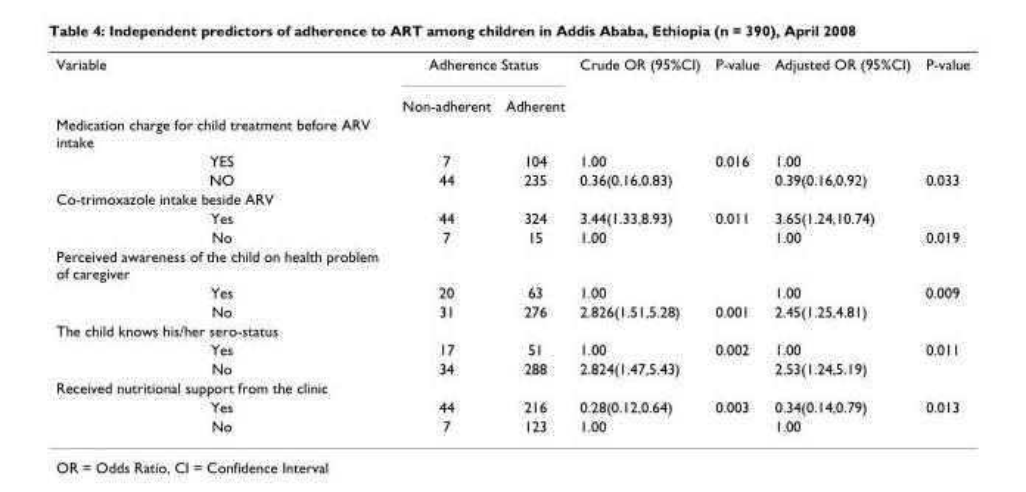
<table><tbody><tr><td rowspan="2">Variable</td><td colspan="2">Adherence Status</td><td>Crude OR (95%CI)</td><td>P-value</td><td>Adjusted OR (95%CI)</td><td>P-value</td></tr><tr><td>Non-adherent</td><td>Adherent</td><td></td><td></td><td></td><td></td></tr><tr><td colspan="7">Medication charge for child treatment before ARV intake</td></tr><tr><td>YES</td><td>7</td><td>104</td><td>1.00</td><td>0.016</td><td>1.00</td><td></td></tr><tr><td>NO</td><td>44</td><td>235</td><td>0.36(0.16,0.83)</td><td></td><td>0.39(0.16,0.92)</td><td>0.033</td></tr><tr><td colspan="7">Co-trimoxazole intake beside ARV</td></tr><tr><td>Yes</td><td>44</td><td>324</td><td>3.44(1.33,8.93)</td><td>0.011</td><td>3.65(1.24,10.74)</td><td></td></tr><tr><td>No</td><td>7</td><td>15</td><td>1.00</td><td></td><td>1.00</td><td>0.019</td></tr><tr><td colspan="7">Perceived awareness of the child on health problem of caregiver</td></tr><tr><td>Yes</td><td>20</td><td>63</td><td>1.00</td><td></td><td>1.00</td><td>0.009</td></tr><tr><td>No</td><td>31</td><td>276</td><td>2.826(1.51,5.28)</td><td>0.001</td><td>2.45(1.25,4.81)</td><td></td></tr><tr><td colspan="7">The child knows his/her sero-status</td></tr><tr><td>Yes</td><td>17</td><td>51</td><td>1.00</td><td>0.002</td><td>1.00</td><td>0.011</td></tr><tr><td>No</td><td>34</td><td>288</td><td>2.824(1.47,5.43)</td><td></td><td>2.53(1.24,5.19)</td><td></td></tr><tr><td colspan="7">Received nutritional support from the clinic</td></tr><tr><td>Yes</td><td>44</td><td>216</td><td>0.28(0.12,0.64)</td><td>0.003</td><td>0.34(0.14,0.79)</td><td>0.013</td></tr><tr><td>No</td><td>7</td><td>123</td><td>1.00</td><td></td><td>1.00</td><td></td></tr></tbody></table>